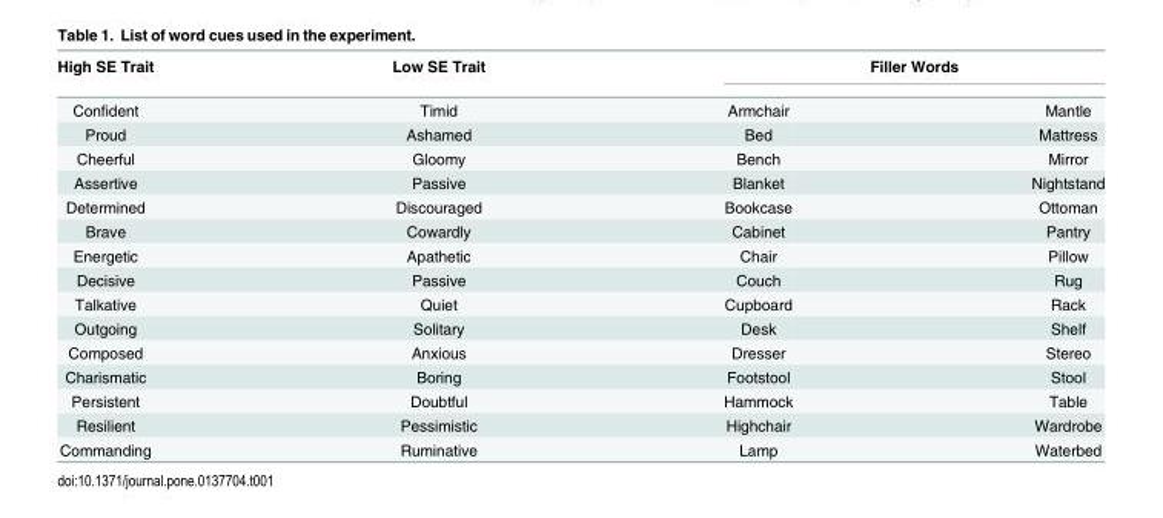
<table><thead><tr><td rowspan="2">High SE Trait Confident</td><td rowspan="2">Low SE Trait Timid</td><td colspan="2">Filler Words</td></tr><tr><td>Armchair</td><td>Mantle</td></tr></thead><tbody><tr><td>Proud</td><td>Ashamed</td><td>Bed</td><td>Mattress</td></tr><tr><td>Cheerful</td><td>Gloomy</td><td>Bench</td><td>Mirror</td></tr><tr><td>Assertive</td><td>Passive</td><td>Blanket</td><td>Nightstand</td></tr><tr><td>Determined</td><td>Discouraged</td><td>Bookcase</td><td>Ottoman</td></tr><tr><td>Brave</td><td>Cowardly</td><td>Cabinet</td><td>Pantry</td></tr><tr><td>Energetic</td><td>Apathetic</td><td>Chair</td><td>Pillow</td></tr><tr><td>Decisive</td><td>Passive</td><td>Couch</td><td>Rug</td></tr><tr><td>Talkative</td><td>Quiet</td><td>Cupboard</td><td>Rack</td></tr><tr><td>Outgoing</td><td>Solitary</td><td>Desk</td><td>Shelf</td></tr><tr><td>Composed</td><td>Anxious</td><td>Dresser</td><td>Stereo</td></tr><tr><td>Charismatic</td><td>Boring</td><td>Footstool</td><td>Stool</td></tr><tr><td>Persistent</td><td>Doubtful</td><td>Hammock</td><td>Table</td></tr><tr><td>Resilient</td><td>Pessimistic</td><td>Highchair</td><td>Wardrobe</td></tr><tr><td>Commanding</td><td>Ruminative</td><td>Lamp</td><td>Waterbed</td></tr></tbody></table>